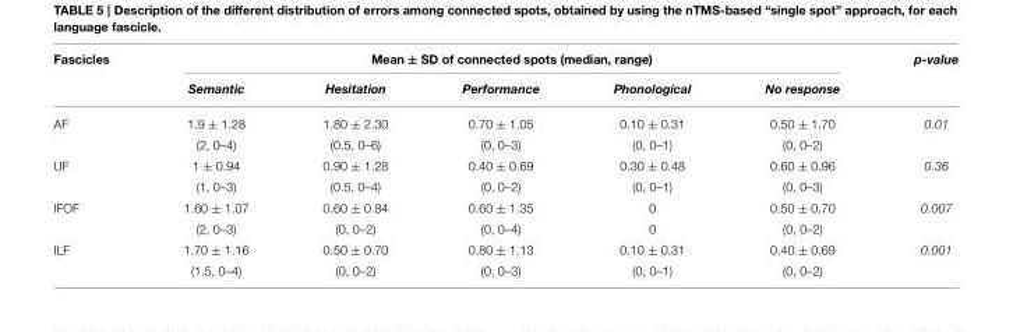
<table><thead><tr><td rowspan="2">Fascicles</td><td colspan="5">Mean ± SD of connected spots (median, range)</td><td rowspan="2">p-value</td></tr><tr><td>Semantic</td><td>Hesitation</td><td>Performance</td><td>Phonological</td><td>No response</td></tr></thead><tbody><tr><td rowspan="2">AF</td><td>1.9 ± 1.28</td><td>1.80 ± 2.30</td><td>0.70 ± 1.05</td><td>0.10 ± 0.31</td><td>0.50 ± 1.70</td><td>0.01</td></tr><tr><td>(2, 0–4)</td><td>(0.5, 0–6)</td><td>(0, 0–3)</td><td>(0, 0–1)</td><td>(0, 0–2)</td><td></td></tr><tr><td rowspan="2">UF</td><td>1 ± 0.94</td><td>0.90 ± 1.28</td><td>0.40 ± 0.69</td><td>0.30 ± 0.48</td><td>0.60 ± 0.96</td><td>0.36</td></tr><tr><td>(1, 0–3)</td><td>(0.5, 0–4)</td><td>(0, 0–2)</td><td>(0, 0–1)</td><td>(0, 0–3)</td><td></td></tr><tr><td rowspan="2">IFOF</td><td>1.60 ± 1.07</td><td>0.60 ± 0.84</td><td>0.60 ± 1.35</td><td>0</td><td>0.50 ± 0.70</td><td>0.007</td></tr><tr><td>(2, 0–3)</td><td>(0, 0–2)</td><td>(0, 0–4)</td><td>0</td><td>(0, 0–2)</td><td></td></tr><tr><td rowspan="2">ILF</td><td>1.70 ± 1.16</td><td>0.50 ± 0.70</td><td>0.80 ± 1.13</td><td>0.10 ± 0.31</td><td>0.40 ± 0.69</td><td>0.001</td></tr><tr><td>(1.5, 0–4)</td><td>(0, 0–2)</td><td>(0, 0–3)</td><td>(0, 0–1)</td><td>(0, 0–2)</td><td></td></tr></tbody></table>